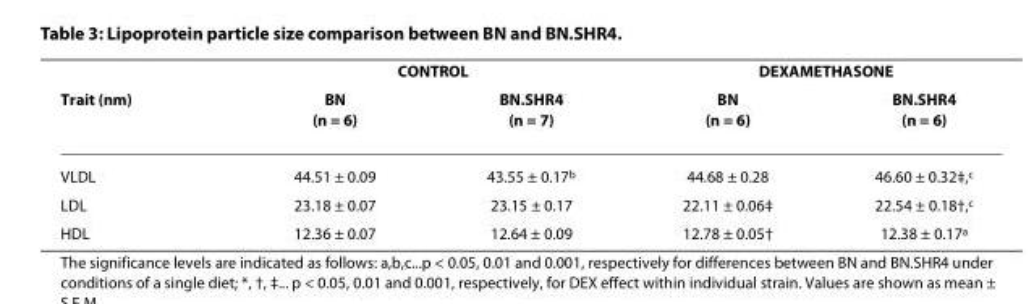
<table><thead><tr><td rowspan="2">Trait (nm)</td><td colspan="2">CONTROL</td><td colspan="2">DEXAMETHASONE</td></tr><tr><td>BN (n = 6)</td><td>BN.SHR4 (n = 7)</td><td>BN (n = 6)</td><td>BN.SHR4 (n = 6)</td></tr></thead><tbody><tr><td>VLDL</td><td>44.51 ± 0.09</td><td>43.55 ± 0.17<sup>b</sup></td><td>44.68 ± 0.28</td><td>46.60 ± 0.32‡,<sup>c</sup></td></tr><tr><td>LDL</td><td>23.18 ± 0.07</td><td>23.15 ± 0.17</td><td>22.11 ± 0.06‡</td><td>22.54 ± 0.18†,<sup>c</sup></td></tr><tr><td>HDL</td><td>12.36 ± 0.07</td><td>12.64 ± 0.09</td><td>12.78 ± 0.05†</td><td>12.38 ± 0.17<sup>a</sup></td></tr></tbody></table>